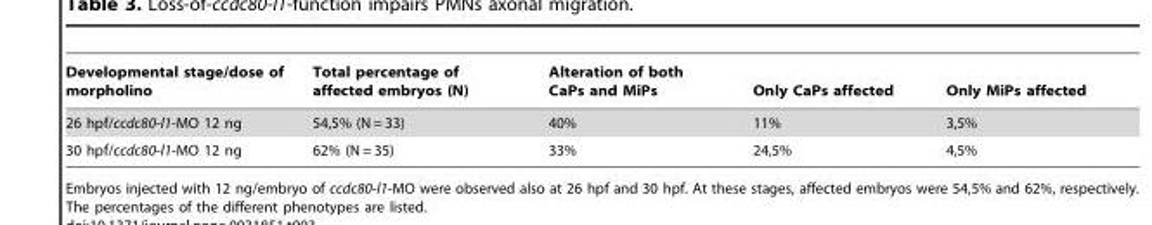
<table><thead><tr><td>Developmental stage/dose of morpholino</td><td>Total percentage of affected embryos (N)</td><td>Alteration of both CaPs and MiPs</td><td>Only CaPs affected</td><td>Only MiPs affected</td></tr></thead><tbody><tr><td>26 hpf/ccdc80-l1-MO 12 ng</td><td>54,5% (N = 33)</td><td>40%</td><td>11%</td><td>3,5%</td></tr><tr><td>30 hpf/ccdc80-l1-MO 12 ng</td><td>62% (N = 35)</td><td>33%</td><td>24,5%</td><td>4,5%</td></tr></tbody></table>